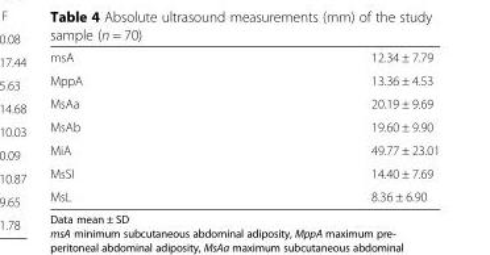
<table><tbody><tr><td>msA</td><td>12.34 ± 7.79</td></tr><tr><td>MppA</td><td>13.36 ± 4.53</td></tr><tr><td>MsAa</td><td>20.19 ± 9.69</td></tr><tr><td>MsAb</td><td>19.60 ± 9.90</td></tr><tr><td>MiA</td><td>49.77 ± 23.01</td></tr><tr><td>MsSI</td><td>14.40 ± 7.69</td></tr><tr><td>MsL</td><td>8.36 ± 6.90</td></tr></tbody></table>